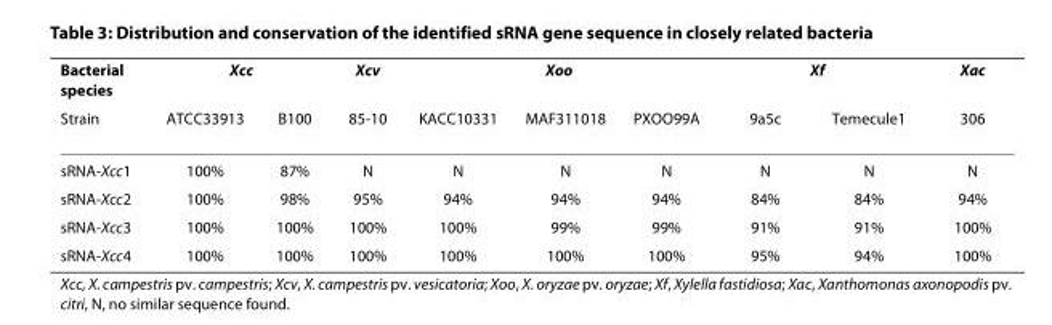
<table><thead><tr><td rowspan="2">Bacterial species Strain</td><td colspan="2">Xcc</td><td rowspan="2">Xcv 85-10</td><td colspan="3">Xoo</td><td colspan="2">Xf</td><td rowspan="2">Xac 306</td></tr><tr><td>ATCC33913</td><td>B100</td><td>KACC10331</td><td>MAF311018</td><td>PXOO99A</td><td>9a5c</td><td>Temecule1</td></tr></thead><tbody><tr><td>sRNA-Xcc1</td><td>100%</td><td>87%</td><td>N</td><td>N</td><td>N</td><td>N</td><td>N</td><td>N</td><td>N</td></tr><tr><td>sRNA-Xcc2</td><td>100%</td><td>98%</td><td>95%</td><td>94%</td><td>94%</td><td>94%</td><td>84%</td><td>84%</td><td>94%</td></tr><tr><td>sRNA-Xcc3</td><td>100%</td><td>100%</td><td>100%</td><td>100%</td><td>99%</td><td>99%</td><td>91%</td><td>91%</td><td>100%</td></tr><tr><td>sRNA-Xcc4</td><td>100%</td><td>100%</td><td>100%</td><td>100%</td><td>100%</td><td>100%</td><td>95%</td><td>94%</td><td>100%</td></tr></tbody></table>